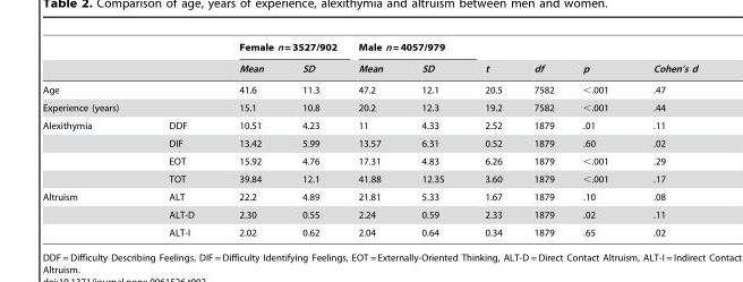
<table><thead><tr><td rowspan="2"></td><td rowspan="2"></td><td colspan="2">Female n = 3527/902</td><td colspan="2">Male n = 4057/979</td><td rowspan="2">t</td><td rowspan="2">df</td><td rowspan="2">p</td><td rowspan="2">Cohen’s d</td></tr><tr><td>Mean</td><td>SD</td><td>Mean</td><td>SD</td></tr></thead><tbody><tr><td colspan="2">Age</td><td>41.6</td><td>11.3</td><td>47.2</td><td>12.1</td><td>20.5</td><td>7582</td><td>&lt;.001</td><td>.47</td></tr><tr><td colspan="2">Experience (years)</td><td>15.1</td><td>10.8</td><td>20.2</td><td>12.3</td><td>19.2</td><td>7582</td><td>&lt;.001</td><td>.44</td></tr><tr><td rowspan="4">Alexithymia</td><td>DDF</td><td>10.51</td><td>4.23</td><td>11</td><td>4.33</td><td>2.52</td><td>1879</td><td>.01</td><td>.11</td></tr><tr><td>DIF</td><td>13.42</td><td>5.99</td><td>13.57</td><td>6.31</td><td>0.52</td><td>1879</td><td>.60</td><td>.02</td></tr><tr><td>EOT</td><td>15.92</td><td>4.76</td><td>17.31</td><td>4.83</td><td>6.26</td><td>1879</td><td>&lt;.001</td><td>.29</td></tr><tr><td>TOT</td><td>39.84</td><td>12.1</td><td>41.88</td><td>12.35</td><td>3.60</td><td>1879</td><td>&lt;.001</td><td>.17</td></tr><tr><td rowspan="3">Altruism</td><td>ALT</td><td>22.2</td><td>4.89</td><td>21.81</td><td>5.33</td><td>1.67</td><td>1879</td><td>.10</td><td>.08</td></tr><tr><td>ALT-D</td><td>2.30</td><td>0.55</td><td>2.24</td><td>0.59</td><td>2.33</td><td>1879</td><td>.02</td><td>.11</td></tr><tr><td>ALT-I</td><td>2.02</td><td>0.62</td><td>2.04</td><td>0.64</td><td>0.34</td><td>1879</td><td>.65</td><td>.02</td></tr></tbody></table>